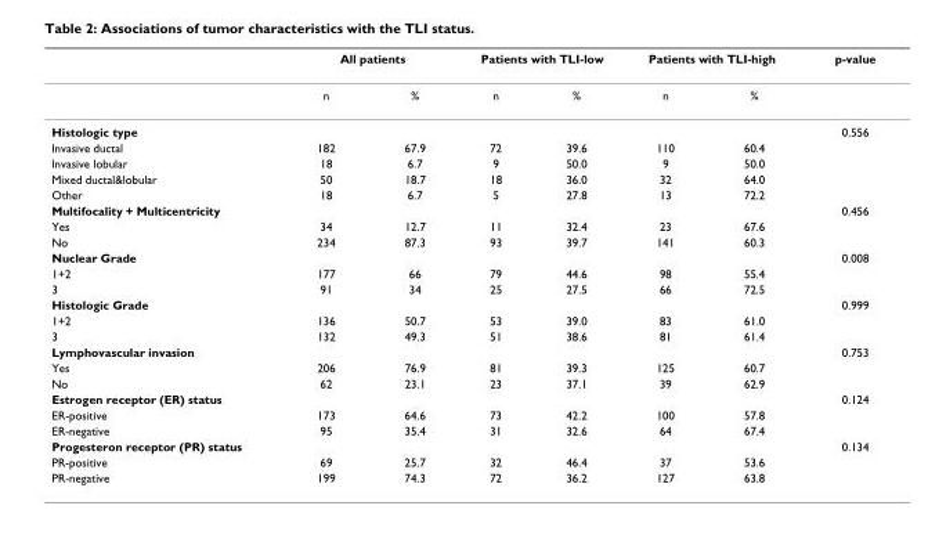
<table><thead><tr><td rowspan="2"></td><td colspan="2">All patients</td><td colspan="2">Patients with TLI-low</td><td colspan="2">Patients with TLI-high</td><td rowspan="2">p-value</td></tr><tr><td>n</td><td>%</td><td>n</td><td>%</td><td>n</td><td>%</td></tr></thead><tbody><tr><td>Histologic type</td><td></td><td></td><td></td><td></td><td></td><td></td><td>0.556</td></tr><tr><td>Invasive ductal</td><td>182</td><td>67.9</td><td>72</td><td>39.6</td><td>110</td><td>60.4</td><td></td></tr><tr><td>Invasive lobular</td><td>18</td><td>6.7</td><td>9</td><td>50.0</td><td>9</td><td>50.0</td><td></td></tr><tr><td>Mixed ductal&amp;lobular</td><td>50</td><td>18.7</td><td>18</td><td>36.0</td><td>32</td><td>64.0</td><td></td></tr><tr><td>Other</td><td>18</td><td>6.7</td><td>5</td><td>27.8</td><td>13</td><td>72.2</td><td></td></tr><tr><td>Multifocality + Multicentricity</td><td></td><td></td><td></td><td></td><td></td><td></td><td>0.456</td></tr><tr><td>Yes</td><td>34</td><td>12.7</td><td>11</td><td>32.4</td><td>23</td><td>67.6</td><td></td></tr><tr><td>No</td><td>234</td><td>87.3</td><td>93</td><td>39.7</td><td>141</td><td>60.3</td><td></td></tr><tr><td>Nuclear Grade</td><td></td><td></td><td></td><td></td><td></td><td></td><td>0.008</td></tr><tr><td>1+2</td><td>177</td><td>66</td><td>79</td><td>44.6</td><td>98</td><td>55.4</td><td></td></tr><tr><td>3</td><td>91</td><td>34</td><td>25</td><td>27.5</td><td>66</td><td>72.5</td><td></td></tr><tr><td>Histologic Grade</td><td></td><td></td><td></td><td></td><td></td><td></td><td>0.999</td></tr><tr><td>1+2</td><td>136</td><td>50.7</td><td>53</td><td>39.0</td><td>83</td><td>61.0</td><td></td></tr><tr><td>3</td><td>132</td><td>49.3</td><td>51</td><td>38.6</td><td>81</td><td>61.4</td><td></td></tr><tr><td>Lymphovascular invasion</td><td></td><td></td><td></td><td></td><td></td><td></td><td>0.753</td></tr><tr><td>Yes</td><td>206</td><td>76.9</td><td>81</td><td>39.3</td><td>125</td><td>60.7</td><td></td></tr><tr><td>No</td><td>62</td><td>23.1</td><td>23</td><td>37.1</td><td>39</td><td>62.9</td><td></td></tr><tr><td>Estrogen receptor (ER) status</td><td></td><td></td><td></td><td></td><td></td><td></td><td>0.124</td></tr><tr><td>ER-positive</td><td>173</td><td>64.6</td><td>73</td><td>42.2</td><td>100</td><td>57.8</td><td></td></tr><tr><td>ER-negative</td><td>95</td><td>35.4</td><td>31</td><td>32.6</td><td>64</td><td>67.4</td><td></td></tr><tr><td>Progesteron receptor (PR) status</td><td></td><td></td><td></td><td></td><td></td><td></td><td>0.134</td></tr><tr><td>PR-positive</td><td>69</td><td>25.7</td><td>32</td><td>46.4</td><td>37</td><td>53.6</td><td></td></tr><tr><td>PR-negative</td><td>199</td><td>74.3</td><td>72</td><td>36.2</td><td>127</td><td>63.8</td><td></td></tr></tbody></table>